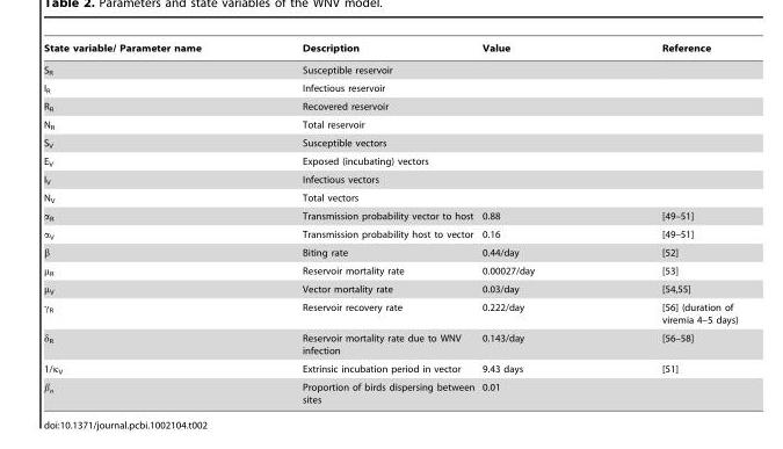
<table><thead><tr><td>State variable/ Parameter name</td><td>Description</td><td>Value</td><td>Reference</td></tr></thead><tbody><tr><td>S<sub>R</sub></td><td>Susceptible reservoir</td><td></td><td></td></tr><tr><td>I<sub>R</sub></td><td>Infectious reservoir</td><td></td><td></td></tr><tr><td>R<sub>R</sub></td><td>Recovered reservoir</td><td></td><td></td></tr><tr><td>N<sub>R</sub></td><td>Total reservoir</td><td></td><td></td></tr><tr><td>S<sub>V</sub></td><td>Susceptible vectors</td><td></td><td></td></tr><tr><td>E<sub>V</sub></td><td>Exposed (incubating) vectors</td><td></td><td></td></tr><tr><td>I<sub>V</sub></td><td>Infectious vectors</td><td></td><td></td></tr><tr><td>N<sub>V</sub></td><td>Total vectors</td><td></td><td></td></tr><tr><td>α<sub>R</sub></td><td>Transmission probability vector to host</td><td>0.88</td><td>[49–51]</td></tr><tr><td>α<sub>V</sub></td><td>Transmission probability host to vector</td><td>0.16</td><td>[49–51]</td></tr><tr><td>β</td><td>Biting rate</td><td>0.44/day</td><td>[52]</td></tr><tr><td>μ<sub>R</sub></td><td>Reservoir mortality rate</td><td>0.00027/day</td><td>[53]</td></tr><tr><td>μ<sub>V</sub></td><td>Vector mortality rate</td><td>0.03/day</td><td>[54,55]</td></tr><tr><td>γ<sub>R</sub></td><td>Reservoir recovery rate</td><td>0.222/day</td><td>[56] (duration of viremia 4–5 days)</td></tr><tr><td>δ<sub>R</sub></td><td>Reservoir mortality rate due to WNV infection</td><td>0.143/day</td><td>[56–58]</td></tr><tr><td>1/κ<sub>V</sub></td><td>Extrinsic incubation period in vector</td><td>9.43 days</td><td>[51]</td></tr><tr><td>β<sub>n</sub></td><td>Proportion of birds dispersing between sites</td><td>0.01</td><td></td></tr></tbody></table>